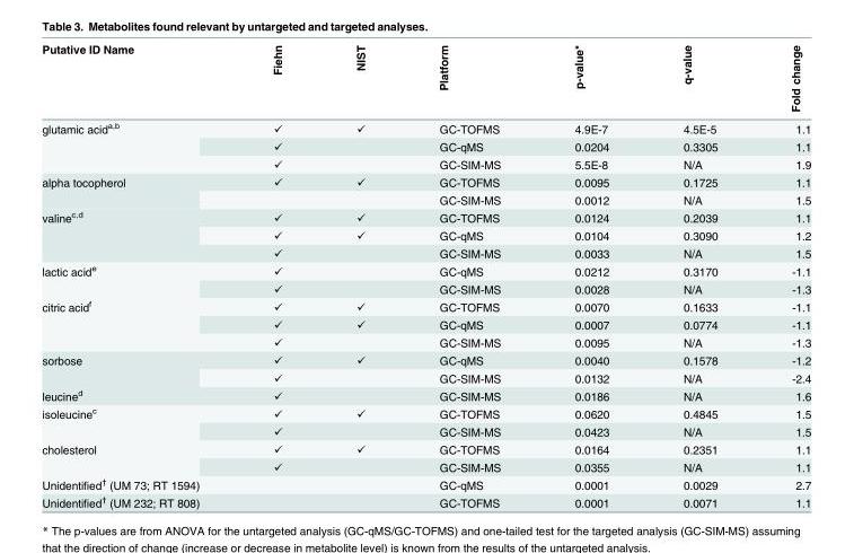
<table><thead><tr><td>Putative ID Name</td><td>Fiehn</td><td>NIST</td><td>Platform</td><td>p-value*</td><td>q-value</td><td>Fold change</td></tr></thead><tbody><tr><td rowspan="3">glutamic acid<sup>a,b</sup></td><td>✓</td><td>✓</td><td>GC-TOFMS</td><td>4.9E-7</td><td>4.5E-5</td><td>1.1</td></tr><tr><td>✓</td><td></td><td>GC-qMS</td><td>0.0204</td><td>0.3305</td><td>1.1</td></tr><tr><td>✓</td><td></td><td>GC-SIM-MS</td><td>5.5E-8</td><td>N/A</td><td>1.9</td></tr><tr><td rowspan="2">alpha tocopherol</td><td>✓</td><td>✓</td><td>GC-TOFMS</td><td>0.0095</td><td>0.1725</td><td>1.1</td></tr><tr><td></td><td></td><td>GC-SIM-MS</td><td>0.0012</td><td>N/A</td><td>1.5</td></tr><tr><td rowspan="3">valine<sup>c,d</sup></td><td>✓</td><td>✓</td><td>GC-TOFMS</td><td>0.0124</td><td>0.2039</td><td>1.1</td></tr><tr><td>✓</td><td>✓</td><td>GC-qMS</td><td>0.0104</td><td>0.3090</td><td>1.2</td></tr><tr><td>✓</td><td></td><td>GC-SIM-MS</td><td>0.0033</td><td>N/A</td><td>1.5</td></tr><tr><td rowspan="2">lactic acid<sup>e</sup></td><td>✓</td><td></td><td>GC-qMS</td><td>0.0212</td><td>0.3170</td><td>-1.1</td></tr><tr><td>✓</td><td></td><td>GC-SIM-MS</td><td>0.0028</td><td>N/A</td><td>-1.3</td></tr><tr><td rowspan="3">citric acid<sup>f</sup></td><td>✓</td><td>✓</td><td>GC-TOFMS</td><td>0.0070</td><td>0.1633</td><td>-1.1</td></tr><tr><td>✓</td><td>✓</td><td>GC-qMS</td><td>0.0007</td><td>0.0774</td><td>-1.1</td></tr><tr><td>✓</td><td></td><td>GC-SIM-MS</td><td>0.0095</td><td>N/A</td><td>-1.3</td></tr><tr><td rowspan="2">sorbose</td><td>✓</td><td>✓</td><td>GC-qMS</td><td>0.0040</td><td>0.1578</td><td>-1.2</td></tr><tr><td>✓</td><td></td><td>GC-SIM-MS</td><td>0.0132</td><td>N/A</td><td>-2.4</td></tr><tr><td>leucine<sup>d</sup></td><td>✓</td><td></td><td>GC-SIM-MS</td><td>0.0186</td><td>N/A</td><td>1.6</td></tr><tr><td rowspan="2">isoleucine<sup>c</sup></td><td>✓</td><td>✓</td><td>GC-TOFMS</td><td>0.0620</td><td>0.4845</td><td>1.5</td></tr><tr><td>✓</td><td></td><td>GC-SIM-MS</td><td>0.0423</td><td>N/A</td><td>1.5</td></tr><tr><td rowspan="2">cholesterol</td><td>✓</td><td>✓</td><td>GC-TOFMS</td><td>0.0164</td><td>0.2351</td><td>1.1</td></tr><tr><td>✓</td><td></td><td>GC-SIM-MS</td><td>0.0355</td><td>N/A</td><td>1.1</td></tr><tr><td>Unidentified<sup>†</sup> (UM 73; RT 1594)</td><td></td><td></td><td>GC-qMS</td><td>0.0001</td><td>0.0029</td><td>2.7</td></tr><tr><td>Unidentified<sup>†</sup> (UM 232; RT 808)</td><td></td><td></td><td>GC-TOFMS</td><td>0.0001</td><td>0.0071</td><td>1.1</td></tr></tbody></table>